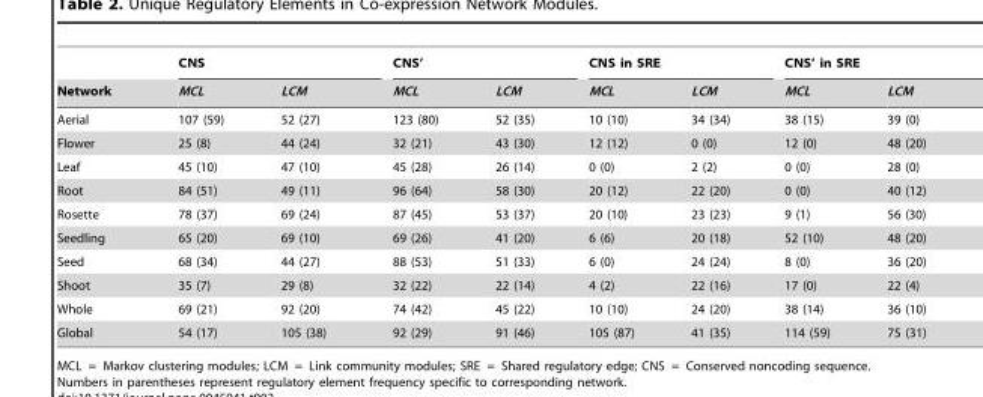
<table><thead><tr><td rowspan="2">Network</td><td colspan="2">CNS</td><td colspan="2">CNS’</td><td colspan="2">CNS in SRE</td><td colspan="2">CNS’ in SRE</td></tr><tr><td>MCL</td><td>LCM</td><td>MCL</td><td>LCM</td><td>MCL</td><td>LCM</td><td>MCL</td><td>LCM</td></tr></thead><tbody><tr><td>Aerial</td><td>107 (59)</td><td>52 (27)</td><td>123 (80)</td><td>52 (35)</td><td>10 (10)</td><td>34 (34)</td><td>38 (15)</td><td>39 (0)</td></tr><tr><td>Flower</td><td>25 (8)</td><td>44 (24)</td><td>32 (21)</td><td>43 (30)</td><td>12 (12)</td><td>0 (0)</td><td>12 (0)</td><td>48 (20)</td></tr><tr><td>Leaf</td><td>45 (10)</td><td>47 (10)</td><td>45 (28)</td><td>26 (14)</td><td>0 (0)</td><td>2 (2)</td><td>0 (0)</td><td>28 (0)</td></tr><tr><td>Root</td><td>84 (51)</td><td>49 (11)</td><td>96 (64)</td><td>58 (30)</td><td>20 (12)</td><td>22 (20)</td><td>0 (0)</td><td>40 (12)</td></tr><tr><td>Rosette</td><td>78 (37)</td><td>69 (24)</td><td>87 (45)</td><td>53 (37)</td><td>20 (10)</td><td>23 (23)</td><td>9 (1)</td><td>56 (30)</td></tr><tr><td>Seedling</td><td>65 (20)</td><td>69 (10)</td><td>69 (26)</td><td>41 (20)</td><td>6 (6)</td><td>20 (18)</td><td>52 (10)</td><td>48 (20)</td></tr><tr><td>Seed</td><td>68 (34)</td><td>44 (27)</td><td>88 (53)</td><td>51 (33)</td><td>6 (0)</td><td>24 (24)</td><td>8 (0)</td><td>36 (20)</td></tr><tr><td>Shoot</td><td>35 (7)</td><td>29 (8)</td><td>32 (22)</td><td>22 (14)</td><td>4 (2)</td><td>22 (16)</td><td>17 (0)</td><td>22 (4)</td></tr><tr><td>Whole</td><td>69 (21)</td><td>92 (20)</td><td>74 (42)</td><td>45 (22)</td><td>10 (10)</td><td>24 (20)</td><td>38 (14)</td><td>36 (10)</td></tr><tr><td>Global</td><td>54 (17)</td><td>105 (38)</td><td>92 (29)</td><td>91 (46)</td><td>105 (87)</td><td>41 (35)</td><td>114 (59)</td><td>75 (31)</td></tr></tbody></table>